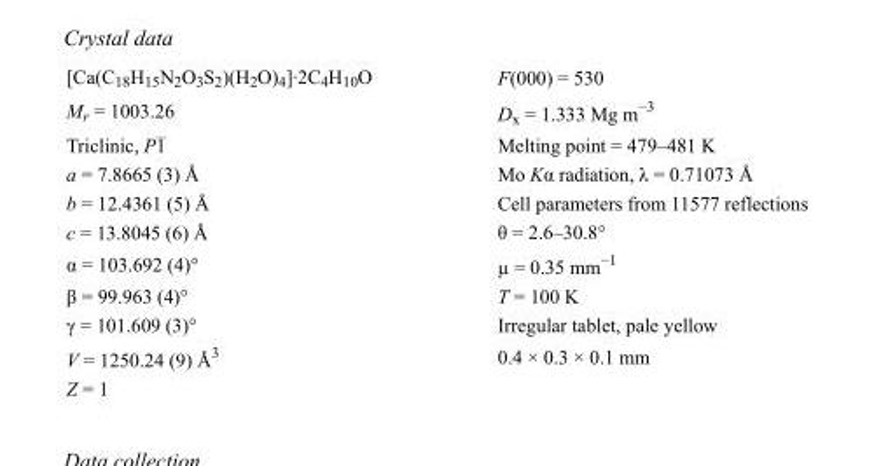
<table><tbody><tr><td>[Ca(C<sub>18</sub>H<sub>15</sub>N<sub>2</sub>O<sub>3</sub>S<sub>2</sub>)(H<sub>2</sub>O)<sub>4</sub>]·2C<sub>4</sub>H<sub>10</sub>O</td><td>F(000) = 530</td></tr><tr><td>M<sub>r</sub> = 1003.26</td><td>D<sub>x</sub> = 1.333 Mg m<sup>−3</sup></td></tr><tr><td>Triclinic, P1</td><td>Melting point = 479–481 K</td></tr><tr><td>a = 7.8665 (3) Å</td><td>Mo Kα radiation, λ = 0.71073 Å</td></tr><tr><td>b = 12.4361 (5) Å</td><td>Cell parameters from 11577 reflections</td></tr><tr><td>c = 13.8045 (6) Å</td><td>θ = 2.6–30.8°</td></tr><tr><td>α = 103.692 (4)°</td><td>µ = 0.35 mm<sup>−1</sup></td></tr><tr><td>β = 99.963 (4)°</td><td>T = 100 K</td></tr><tr><td>γ = 101.609 (3)°</td><td>Irregular tablet, pale yellow</td></tr><tr><td>V = 1250.24 (9) Å<sup>3</sup></td><td>0.4 × 0.3 × 0.1 mm</td></tr><tr><td>Z = 1</td><td></td></tr></tbody></table>